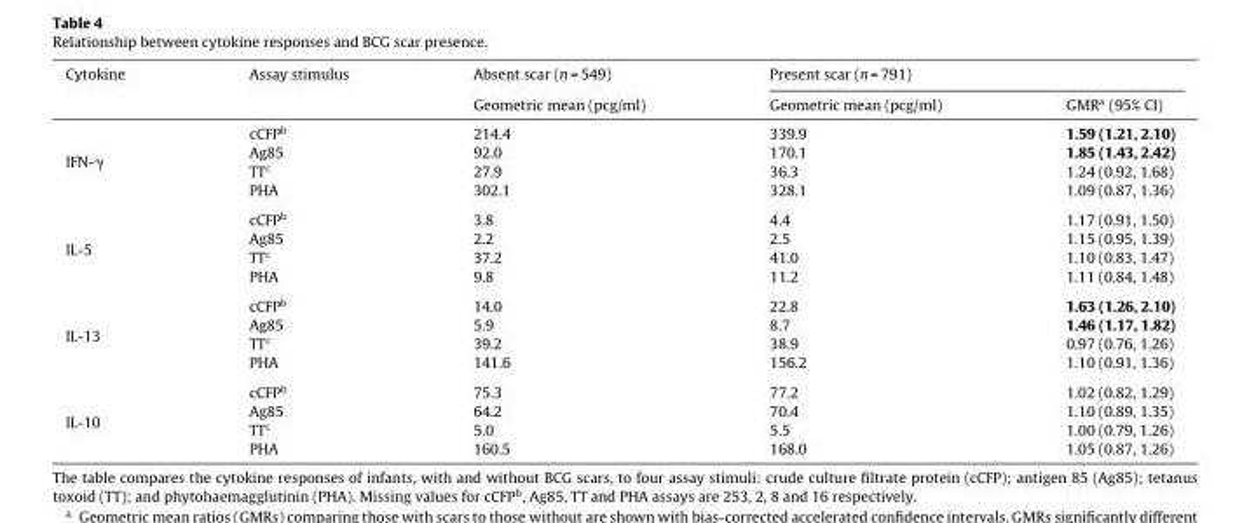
<table><thead><tr><td rowspan="2">Cytokine</td><td rowspan="2">Assay stimulus</td><td rowspan="2">Absent scar (n = 549) Geometric mean (pcg/ml)</td><td colspan="2">Present scar (n = 791)</td></tr><tr><td>Geometric mean (pcg/ml)</td><td>GMR<sup>a</sup> (95% CI)</td></tr></thead><tbody><tr><td rowspan="4">IFN-γ</td><td>cCFP<sup>b</sup></td><td>214.4</td><td>339.9</td><td>1.59 (1.21, 2.10)</td></tr><tr><td>Ag85</td><td>92.0</td><td>170.1</td><td>1.85 (1.43, 2.42)</td></tr><tr><td>TT<sup>c</sup></td><td>27.9</td><td>36.3</td><td>1.24 (0.92, 1.68)</td></tr><tr><td>PHA</td><td>302.1</td><td>328.1</td><td>1.09 (0.87, 1.36)</td></tr><tr><td rowspan="4">IL-5</td><td>cCFP<sup>b</sup></td><td>3.8</td><td>4.4</td><td>1.17 (0.91, 1.50)</td></tr><tr><td>Ag85</td><td>2.2</td><td>2.5</td><td>1.15 (0.95, 1.39)</td></tr><tr><td>TT<sup>c</sup></td><td>37.2</td><td>41.0</td><td>1.10 (0.83, 1.47)</td></tr><tr><td>PHA</td><td>9.8</td><td>11.2</td><td>1.11 (0.84, 1.48)</td></tr><tr><td rowspan="4">IL-13</td><td>cCFP<sup>b</sup></td><td>14.0</td><td>22.8</td><td>1.63 (1.26, 2.10)</td></tr><tr><td>Ag85</td><td>5.9</td><td>8.7</td><td>1.46 (1.17, 1.82)</td></tr><tr><td>TT<sup>c</sup></td><td>39.2</td><td>38.9</td><td>0.97 (0.76, 1.26)</td></tr><tr><td>PHA</td><td>141.6</td><td>156.2</td><td>1.10 (0.91, 1.36)</td></tr><tr><td rowspan="4">IL-10</td><td>cCFP<sup>b</sup></td><td>75.3</td><td>77.2</td><td>1.02 (0.82, 1.29)</td></tr><tr><td>Ag85</td><td>64.2</td><td>70.4</td><td>1.10 (0.89, 1.35)</td></tr><tr><td>TT<sup>c</sup></td><td>5.0</td><td>5.5</td><td>1.00 (0.79, 1.26)</td></tr><tr><td>PHA</td><td>160.5</td><td>168.0</td><td>1.05 (0.87, 1.26)</td></tr></tbody></table>